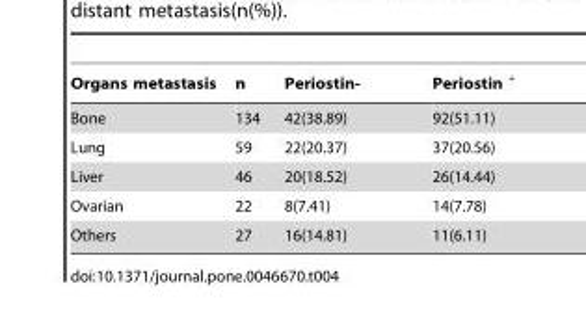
<table><thead><tr><td>Organs metastasis</td><td>n</td><td>Periostin-</td><td>Periostin <sup>+</sup></td></tr></thead><tbody><tr><td>Bone</td><td>134</td><td>42(38.89)</td><td>92(51.11)</td></tr><tr><td>Lung</td><td>59</td><td>22(20.37)</td><td>37(20.56)</td></tr><tr><td>Liver</td><td>46</td><td>20(18.52)</td><td>26(14.44)</td></tr><tr><td>Ovarian</td><td>22</td><td>8(7.41)</td><td>14(7.78)</td></tr><tr><td>Others</td><td>27</td><td>16(14.81)</td><td>11(6.11)</td></tr></tbody></table>